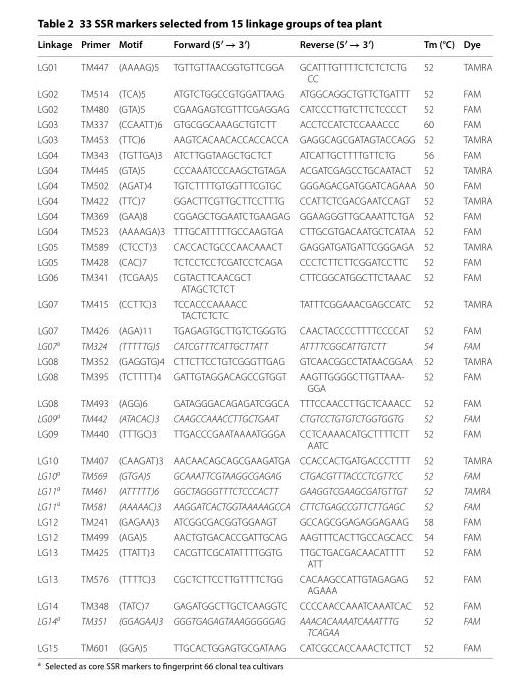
<table><thead><tr><td>Linkage</td><td>Primer</td><td>Motif</td><td>Forward (5′ → 3′)</td><td>Reverse (5′ → 3′)</td><td>Tm (°C)</td><td>Dye</td></tr></thead><tbody><tr><td>LG01</td><td>TM447</td><td>(AAAAG)5</td><td>TGTTGTTAACGGTGTTCGGA</td><td>GCATTTGTTTTCTCTCTCTG CC</td><td>52</td><td>TAMRA</td></tr><tr><td>LG02</td><td>TM514</td><td>(TCA)5</td><td>ATGTCTGGCCGTGGATTAAG</td><td>ATGGCAGGCTGTTCTGATTT</td><td>52</td><td>FAM</td></tr><tr><td>LG02</td><td>TM480</td><td>(GTA)5</td><td>CGAAGAGTCGTTTCGAGGAG</td><td>CATCCCTTGTCTTCTCCCCT</td><td>52</td><td>FAM</td></tr><tr><td>LG03</td><td>TM337</td><td>(CCAATT)6</td><td>GTGCGGCAAAGCTGTCTT</td><td>ACCTCCATCTCCAAACCC</td><td>60</td><td>FAM</td></tr><tr><td>LG03</td><td>TM453</td><td>(TTC)6</td><td>AAGTCACAACACCACCACCA</td><td>GAGGCAGCGATAGTACCAGG</td><td>52</td><td>TAMRA</td></tr><tr><td>LG04</td><td>TM343</td><td>(TGTTGA)3</td><td>ATCTTGGTAAGCTGCTCT</td><td>ATCATTGCTTTTGTTCTG</td><td>56</td><td>FAM</td></tr><tr><td>LG04</td><td>TM445</td><td>(GTA)5</td><td>CCCAAATCCCAAGCTGTAGA</td><td>ACGATCGAGCCTGCAATACT</td><td>52</td><td>TAMRA</td></tr><tr><td>LG04</td><td>TM502</td><td>(AGAT)4</td><td>TGTCTTTTGTGGTTTCGTGC</td><td>GGGAGACGATGGATCAGAAA</td><td>50</td><td>FAM</td></tr><tr><td>LG04</td><td>TM422</td><td>(TTC)7</td><td>GGACTTCGTTGCTTCCTTTG</td><td>CCATTCTCGACGAATCCAGT</td><td>52</td><td>TAMRA</td></tr><tr><td>LG04</td><td>TM369</td><td>(GAA)8</td><td>CGGAGCTGGAATCTGAAGAG</td><td>GGAAGGGTTGCAAATTCTGA</td><td>52</td><td>FAM</td></tr><tr><td>LG04</td><td>TM523</td><td>(AAAAGA)3</td><td>TTTGCATTTTTGCCAAGTGA</td><td>CTTGCGTGACAATGCTCATAA</td><td>52</td><td>FAM</td></tr><tr><td>LG05</td><td>TM589</td><td>(CTCCT)3</td><td>CACCACTGCCCAACAAACT</td><td>GAGGATGATGATTCGGGAGA</td><td>52</td><td>TAMRA</td></tr><tr><td>LG05</td><td>TM428</td><td>(CAC)7</td><td>TCTCCTCCTCGATCCTCAGA</td><td>CCCTCTTCTTCGGATCCTTC</td><td>52</td><td>FAM</td></tr><tr><td>LG06</td><td>TM341</td><td>(TCGAA)5</td><td>CGTACTTCAACGCT ATAGCTCTCT</td><td>CTTCGGCATGGCTTCTAAAC</td><td>52</td><td>FAM</td></tr><tr><td>LG07</td><td>TM415</td><td>(CCTTC)3</td><td>TCCACCCAAAACC TACTCTCTC</td><td>TATTTCGGAAACGAGCCATC</td><td>52</td><td>TAMRA</td></tr><tr><td>LG07</td><td>TM426</td><td>(AGA)11</td><td>TGAGAGTGCTTGTCTGGGTG</td><td>CAACTACCCCTTTTCCCCAT</td><td>52</td><td>FAM</td></tr><tr><td>LG07<sup>a</sup></td><td>TM324</td><td>(TTTTTG)5</td><td>CATCGTTTCATTGCTTATT</td><td>ATTTTCGGCATTGTCTT</td><td>54</td><td>FAM</td></tr><tr><td>LG08</td><td>TM352</td><td>(GAGGTG)4</td><td>CTTCTTCCTGTCGGGTTGAG</td><td>GTCAACGGCCTATAACGGAA</td><td>52</td><td>TAMRA</td></tr><tr><td>LG08</td><td>TM395</td><td>(TCTTTT)4</td><td>GATTGTAGGACAGCCGTGGT</td><td>AAGTTGGGGCTTGTTAAA- GGA</td><td>52</td><td>FAM</td></tr><tr><td>LG08</td><td>TM493</td><td>(AGG)6</td><td>GATAGGGACAGAGATCGGCA</td><td>TTTCCAACCTTGCTCAAACC</td><td>52</td><td>FAM</td></tr><tr><td>LG09<sup>a</sup></td><td>TM442</td><td>(ATACAC)3</td><td>CAAGCCAAACCTTGCTGAAT</td><td>CTGTCCTGTGTCTGGTGGTG</td><td>52</td><td>FAM</td></tr><tr><td>LG09</td><td>TM440</td><td>(TTTGC)3</td><td>TTGACCCGAATAAAATGGGA</td><td>CCTCAAAACATGCTTTTCTT AATC</td><td>52</td><td>FAM</td></tr><tr><td>LG10</td><td>TM407</td><td>(CAAGAT)3</td><td>AACAACAGCAGCGAAGATGA</td><td>CCACCACTGATGACCCTTTT</td><td>52</td><td>TAMRA</td></tr><tr><td>LG10<sup>a</sup></td><td>TM569</td><td>(GTGA)5</td><td>GCAAATTCGTAAGGCGAGAG</td><td>CTGACGTTTACCCTCGTTCC</td><td>52</td><td>FAM</td></tr><tr><td>LG11<sup>a</sup></td><td>TM461</td><td>(ATTTTT)6</td><td>GGCTAGGGTTTCTCCCACTT</td><td>GAAGGTCGAAGCGATGTTGT</td><td>52</td><td>TAMRA</td></tr><tr><td>LG11<sup>a</sup></td><td>TM581</td><td>(AAAAAC)3</td><td>AAGGATCACTGGTAAAAAGCCA</td><td>CTTCTGAGCCGTTCTTGAGC</td><td>52</td><td>FAM</td></tr><tr><td>LG12</td><td>TM241</td><td>(GAGAA)3</td><td>ATCGGCGACGGTGGAAGT</td><td>GCCAGCGGAGAGGAGAAG</td><td>58</td><td>FAM</td></tr><tr><td>LG12</td><td>TM499</td><td>(AGA)5</td><td>AACTGTGACACCGATTGCAG</td><td>AAGTTTCACTTGCCAGCACC</td><td>54</td><td>FAM</td></tr><tr><td>LG13</td><td>TM425</td><td>(TTATT)3</td><td>CACGTTCGCATATTTTGGTG</td><td>TTGCTGACGACAACATTTT ATT</td><td>52</td><td>FAM</td></tr><tr><td>LG13</td><td>TM576</td><td>(TTTTC)3</td><td>CGCTCTTCCTTGTTTTCTGG</td><td>CACAAGCCATTGTAGAGAG AGAAA</td><td>52</td><td>FAM</td></tr><tr><td>LG14</td><td>TM348</td><td>(TATC)7</td><td>GAGATGGCTTGCTCAAGGTC</td><td>CCCCAACCAAATCAAATCAC</td><td>52</td><td>FAM</td></tr><tr><td>LG14<sup>a</sup></td><td>TM351</td><td>(GGAGAA)3</td><td>GGGTGAGAGTAAAGGGGGAG</td><td>AAACACAAAATCAAATTTG TCAGAA</td><td>52</td><td>FAM</td></tr><tr><td>LG15</td><td>TM601</td><td>(GGA)5</td><td>TTGCACTGGAGTGCGATAAG</td><td>CATCGCCACCAAACTCTTCT</td><td>52</td><td>FAM</td></tr></tbody></table>